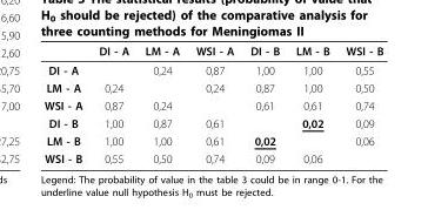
<table><thead><tr><td></td><td>DI - A</td><td>LM - A</td><td>WSI - A</td><td>DI - B</td><td>LM - B</td><td>WSI - B</td></tr></thead><tbody><tr><td>DI - A</td><td></td><td>0,24</td><td>0,87</td><td>1,00</td><td>1,00</td><td>0,55</td></tr><tr><td>LM - A</td><td>0,24</td><td></td><td>0,24</td><td>0,87</td><td>1,00</td><td>0,50</td></tr><tr><td>WSI - A</td><td>0,87</td><td>0,24</td><td></td><td>0,61</td><td>0,61</td><td>0,74</td></tr><tr><td>DI - B</td><td>1,00</td><td>0,87</td><td>0,61</td><td></td><td>0,02</td><td>0,09</td></tr><tr><td>LM - B</td><td>1,00</td><td>1,00</td><td>0,61</td><td>0,02</td><td></td><td>0,06</td></tr><tr><td>WSI - B</td><td>0,55</td><td>0,50</td><td>0,74</td><td>0,09</td><td>0,06</td><td></td></tr></tbody></table>